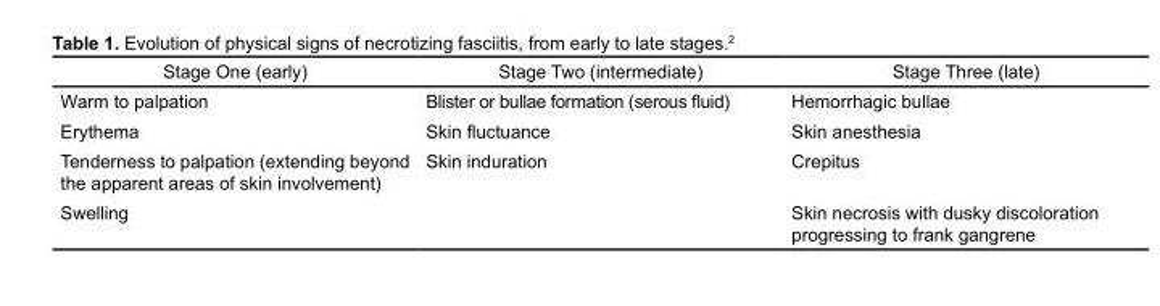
<table><thead><tr><td>Stage One (early)</td><td>Stage Two (intermediate)</td><td>Stage Three (late)</td></tr></thead><tbody><tr><td>Warm to palpation</td><td>Blister or bullae formation (serous fluid)</td><td>Hemorrhagic bullae</td></tr><tr><td>Erythema</td><td>Skin fluctuance</td><td>Skin anesthesia</td></tr><tr><td>Tenderness to palpation (extending beyond the apparent areas of skin involvement)</td><td>Skin induration</td><td>Crepitus</td></tr><tr><td>Swelling</td><td></td><td>Skin necrosis with dusky discoloration progressing to frank gangrene</td></tr></tbody></table>